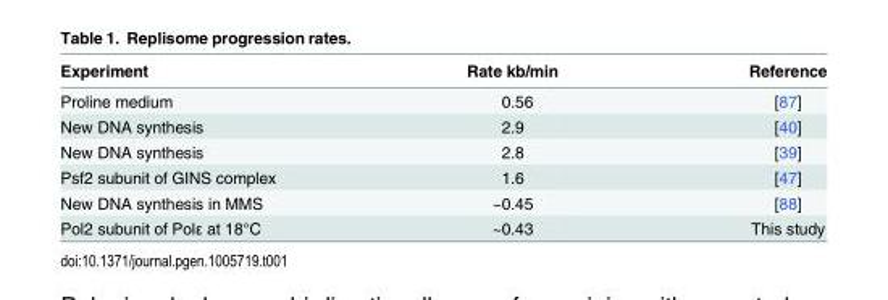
<table><thead><tr><td>Experiment</td><td>Rate kb/min</td><td>Reference</td></tr></thead><tbody><tr><td>Proline medium</td><td>0.56</td><td>[87]</td></tr><tr><td>New DNA synthesis</td><td>2.9</td><td>[40]</td></tr><tr><td>New DNA synthesis</td><td>2.8</td><td>[39]</td></tr><tr><td>Psf2 subunit of GINS complex</td><td>1.6</td><td>[47]</td></tr><tr><td>New DNA synthesis in MMS</td><td>~0.45</td><td>[88]</td></tr><tr><td>Pol2 subunit of Polε at 18°C</td><td>~0.43</td><td>This study</td></tr></tbody></table>